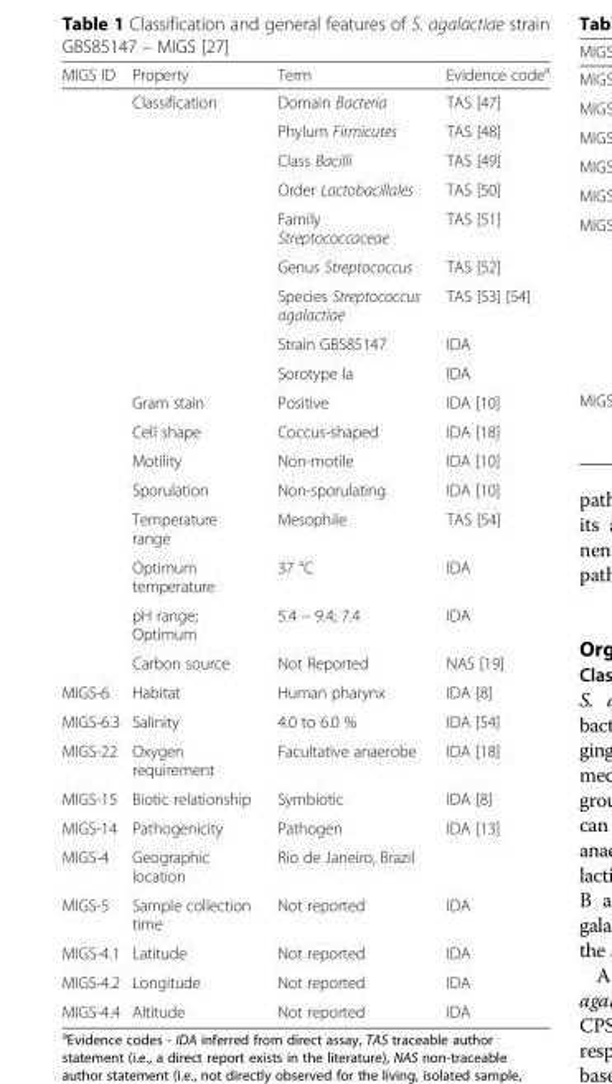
<table><thead><tr><td>MIGS ID</td><td>Property</td><td>Term</td><td>Evidence code<sup>a</sup></td></tr></thead><tbody><tr><td></td><td>Classification</td><td>Domain Bacteria</td><td>TAS [47]</td></tr><tr><td></td><td></td><td>Phylum Firmicutes</td><td>TAS [48]</td></tr><tr><td></td><td></td><td>Class Bacilli</td><td>TAS [49]</td></tr><tr><td></td><td></td><td>Order Lactobacillales</td><td>TAS [50]</td></tr><tr><td></td><td></td><td>Family Streptococcaceae</td><td>TAS [51]</td></tr><tr><td></td><td></td><td>Genus Streptococcus</td><td>TAS [52]</td></tr><tr><td></td><td></td><td>Species Streptococcus agalactiae</td><td>TAS [53] [54]</td></tr><tr><td></td><td></td><td>Strain GBS85147</td><td>IDA</td></tr><tr><td></td><td></td><td>Sorotype Ia</td><td>IDA</td></tr><tr><td></td><td>Gram stain</td><td>Positive</td><td>IDA [10]</td></tr><tr><td></td><td>Cell shape</td><td>Coccus-shaped</td><td>IDA [18]</td></tr><tr><td></td><td>Motility</td><td>Non-motile</td><td>IDA [10]</td></tr><tr><td></td><td>Sporulation</td><td>Non-sporulating</td><td>IDA [10]</td></tr><tr><td></td><td>Temperature range</td><td>Mesophile</td><td>TAS [54]</td></tr><tr><td></td><td>Optimum temperature</td><td>37 °C</td><td>IDA</td></tr><tr><td></td><td>pH range; Optimum</td><td>5.4 – 9.4; 7.4</td><td>IDA</td></tr><tr><td></td><td>Carbon source</td><td>Not Reported</td><td>NAS [19]</td></tr><tr><td>MIGS-6</td><td>Habitat</td><td>Human pharynx</td><td>IDA [8]</td></tr><tr><td>MIGS-6.3</td><td>Salinity</td><td>4.0 to 6.0 %</td><td>IDA [54]</td></tr><tr><td>MIGS-22</td><td>Oxygen requirement</td><td>Facultative anaerobe</td><td>IDA [18]</td></tr><tr><td>MIGS-15</td><td>Biotic relationship</td><td>Symbiotic</td><td>IDA [8]</td></tr><tr><td>MIGS-14</td><td>Pathogenicity</td><td>Pathogen</td><td>IDA [13]</td></tr><tr><td>MIGS-4</td><td>Geographic location</td><td>Rio de Janeiro, Brazil</td><td></td></tr><tr><td>MIGS-5</td><td>Sample collection time</td><td>Not reported</td><td>IDA</td></tr><tr><td>MIGS-4.1</td><td>Latitude</td><td>Not reported</td><td>IDA</td></tr><tr><td>MIGS-4.2</td><td>Longitude</td><td>Not reported</td><td>IDA</td></tr><tr><td>MIGS-4.4</td><td>Altitude</td><td>Not reported</td><td>IDA</td></tr></tbody></table>